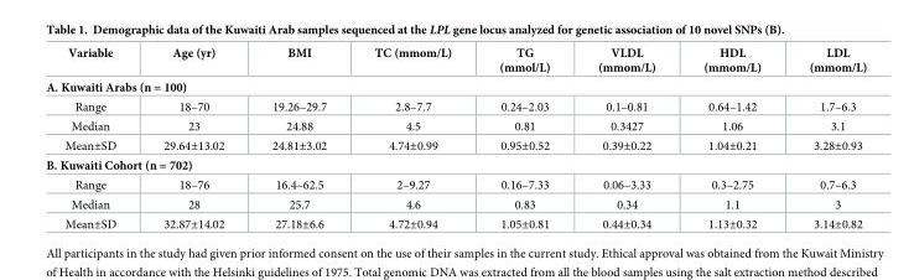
<table><thead><tr><td>Variable</td><td>Age (yr)</td><td>BMI</td><td>TC (mmom/L)</td><td>TG (mmol/L)</td><td>VLDL (mmom/L)</td><td>HDL (mmom/L)</td><td>LDL (mmom/L)</td></tr></thead><tbody><tr><td colspan="8">A. Kuwaiti Arabs (n = 100)</td></tr><tr><td>Range</td><td>18–70</td><td>19.26–29.7</td><td>2.8–7.7</td><td>0.24–2.03</td><td>0.1–0.81</td><td>0.64–1.42</td><td>1.7–6.3</td></tr><tr><td>Median</td><td>23</td><td>24.88</td><td>4.5</td><td>0.81</td><td>0.3427</td><td>1.06</td><td>3.1</td></tr><tr><td>Mean±SD</td><td>29.64±13.02</td><td>24.81±3.02</td><td>4.74±0.99</td><td>0.95±0.52</td><td>0.39±0.22</td><td>1.04±0.21</td><td>3.28±0.93</td></tr><tr><td colspan="8">B. Kuwaiti Cohort (n = 702)</td></tr><tr><td>Range</td><td>18–76</td><td>16.4–62.5</td><td>2–9.27</td><td>0.16–7.33</td><td>0.06–3.33</td><td>0.3–2.75</td><td>0.7–6.3</td></tr><tr><td>Median</td><td>28</td><td>25.7</td><td>4.6</td><td>0.83</td><td>0.34</td><td>1.1</td><td>3</td></tr><tr><td>Mean±SD</td><td>32.87±14.02</td><td>27.18±6.6</td><td>4.72±0.94</td><td>1.05±0.81</td><td>0.44±0.34</td><td>1.13±0.32</td><td>3.14±0.82</td></tr></tbody></table>